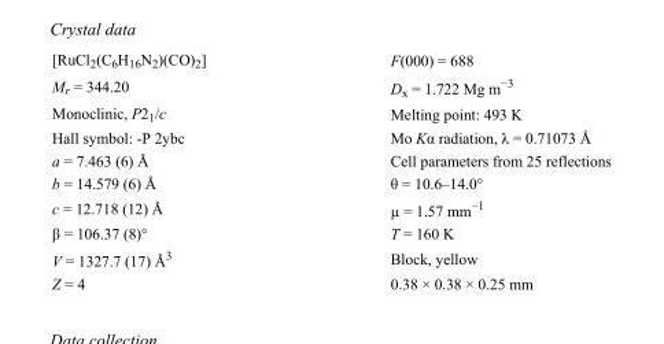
<table><tbody><tr><td>[RuCl<sub>2</sub>(C<sub>6</sub>H<sub>16</sub>N<sub>2</sub>)(CO)<sub>2</sub>]</td><td>F(000) = 688</td></tr><tr><td>M<sub>r</sub> = 344.20</td><td>D<sub>x</sub> = 1.722 Mg m<sup>−3</sup></td></tr><tr><td>Monoclinic, P2<sub>1</sub>/c</td><td>Melting point: 493 K</td></tr><tr><td>Hall symbol: -P 2ybc</td><td>Mo Kα radiation, λ = 0.71073 Å</td></tr><tr><td>a = 7.463 (6) Å</td><td>Cell parameters from 25 reflections</td></tr><tr><td>b = 14.579 (6) Å</td><td>θ = 10.6–14.0°</td></tr><tr><td>c = 12.718 (12) Å</td><td>µ = 1.57 mm<sup>−1</sup></td></tr><tr><td>β = 106.37 (8)°</td><td>T = 160 K</td></tr><tr><td>V = 1327.7 (17) Å<sup>3</sup></td><td>Block, yellow</td></tr><tr><td>Z = 4</td><td>0.38 × 0.38 × 0.25 mm</td></tr></tbody></table>